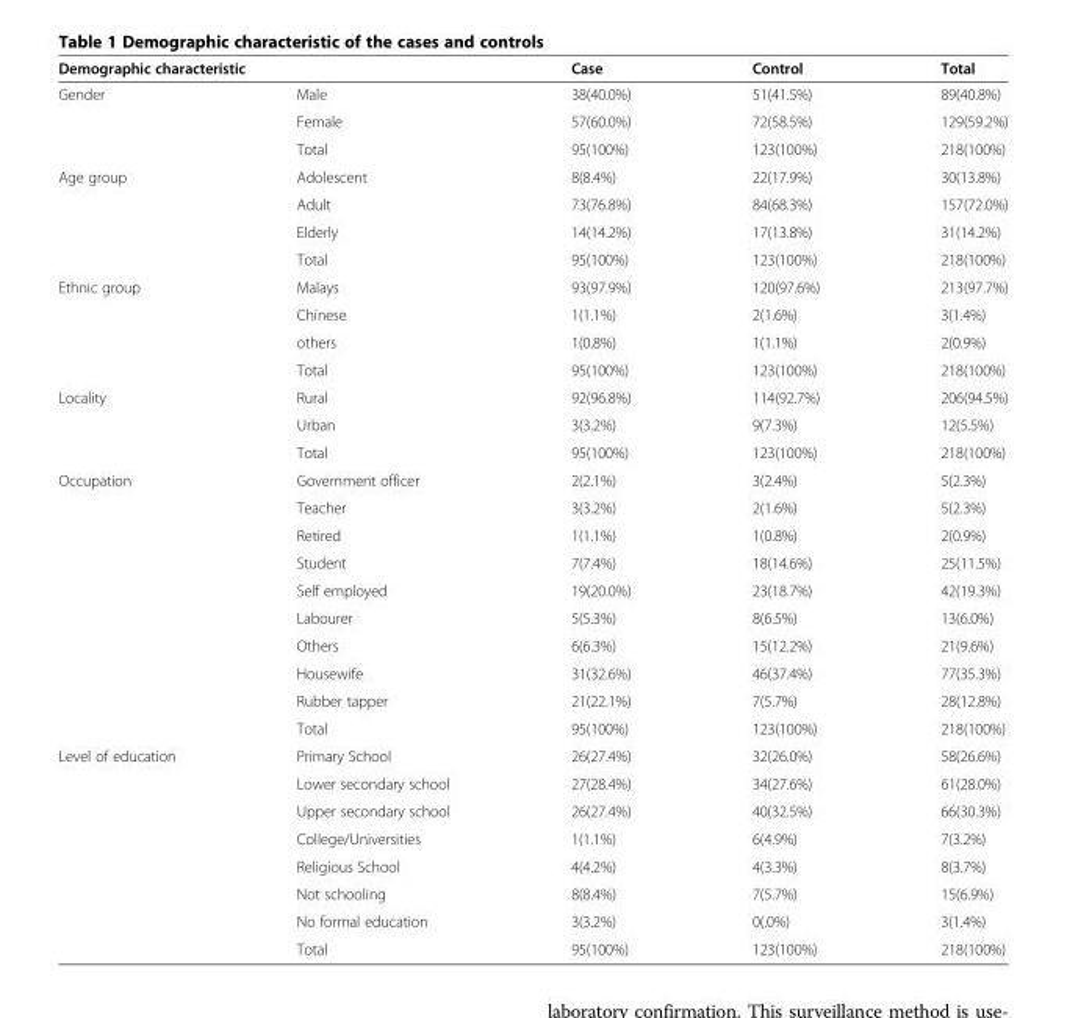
<table><thead><tr><td colspan="2">Demographic characteristic</td><td rowspan="2">Case 38(40.0%)</td><td rowspan="2">Control 51(41.5%)</td><td rowspan="2">Total 89(40.8%)</td></tr><tr><td>Gender</td><td>Male</td></tr></thead><tbody><tr><td></td><td>Female</td><td>57(60.0%)</td><td>72(58.5%)</td><td>129(59.2%)</td></tr><tr><td></td><td>Total</td><td>95(100%)</td><td>123(100%)</td><td>218(100%)</td></tr><tr><td rowspan="4">Age group</td><td>Adolescent</td><td>8(8.4%)</td><td>22(17.9%)</td><td>30(13.8%)</td></tr><tr><td>Adult</td><td>73(76.8%)</td><td>84(68.3%)</td><td>157(72.0%)</td></tr><tr><td>Elderly</td><td>14(14.2%)</td><td>17(13.8%)</td><td>31(14.2%)</td></tr><tr><td>Total</td><td>95(100%)</td><td>123(100%)</td><td>218(100%)</td></tr><tr><td rowspan="4">Ethnic group</td><td>Malays</td><td>93(97.9%)</td><td>120(97.6%)</td><td>213(97.7%)</td></tr><tr><td>Chinese</td><td>1(1.1%)</td><td>2(1.6%)</td><td>3(1.4%)</td></tr><tr><td>others</td><td>1(0.8%)</td><td>1(1.1%)</td><td>2(0.9%)</td></tr><tr><td>Total</td><td>95(100%)</td><td>123(100%)</td><td>218(100%)</td></tr><tr><td rowspan="3">Locality</td><td>Rural</td><td>92(96.8%)</td><td>114(92.7%)</td><td>206(94.5%)</td></tr><tr><td>Urban</td><td>3(3.2%)</td><td>9(7.3%)</td><td>12(5.5%)</td></tr><tr><td>Total</td><td>95(100%)</td><td>123(100%)</td><td>218(100%)</td></tr><tr><td rowspan="10">Occupation</td><td>Government officer</td><td>2(2.1%)</td><td>3(2.4%)</td><td>5(2.3%)</td></tr><tr><td>Teacher</td><td>3(3.2%)</td><td>2(1.6%)</td><td>5(2.3%)</td></tr><tr><td>Retired</td><td>1(1.1%)</td><td>1(0.8%)</td><td>2(0.9%)</td></tr><tr><td>Student</td><td>7(7.4%)</td><td>18(14.6%)</td><td>25(11.5%)</td></tr><tr><td>Self employed</td><td>19(20.0%)</td><td>23(18.7%)</td><td>42(19.3%)</td></tr><tr><td>Labourer</td><td>5(5.3%)</td><td>8(6.5%)</td><td>13(6.0%)</td></tr><tr><td>Others</td><td>6(6.3%)</td><td>15(12.2%)</td><td>21(9.6%)</td></tr><tr><td>Housewife</td><td>31(32.6%)</td><td>46(37.4%)</td><td>77(35.3%)</td></tr><tr><td>Rubber tapper</td><td>21(22.1%)</td><td>7(5.7%)</td><td>28(12.8%)</td></tr><tr><td>Total</td><td>95(100%)</td><td>123(100%)</td><td>218(100%)</td></tr><tr><td rowspan="8">Level of education</td><td>Primary School</td><td>26(27.4%)</td><td>32(26.0%)</td><td>58(26.6%)</td></tr><tr><td>Lower secondary school</td><td>27(28.4%)</td><td>34(27.6%)</td><td>61(28.0%)</td></tr><tr><td>Upper secondary school</td><td>26(27.4%)</td><td>40(32.5%)</td><td>66(30.3%)</td></tr><tr><td>College/Universities</td><td>1(1.1%)</td><td>6(4.9%)</td><td>7(3.2%)</td></tr><tr><td>Religious School</td><td>4(4.2%)</td><td>4(3.3%)</td><td>8(3.7%)</td></tr><tr><td>Not schooling</td><td>8(8.4%)</td><td>7(5.7%)</td><td>15(6.9%)</td></tr><tr><td>No formal education</td><td>3(3.2%)</td><td>0(.0%)</td><td>3(1.4%)</td></tr><tr><td>Total</td><td>95(100%)</td><td>123(100%)</td><td>218(100%)</td></tr></tbody></table>